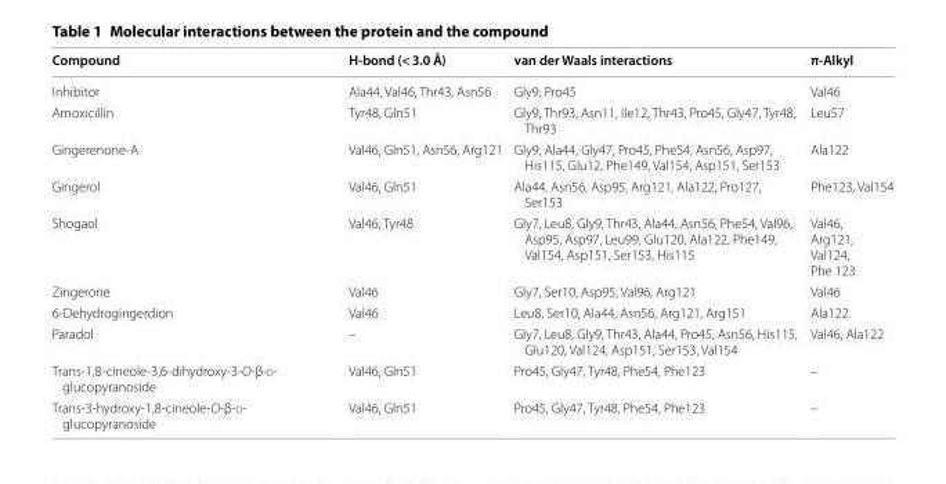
<table><thead><tr><td>Compound</td><td>H‑bond (&lt; 3.0 Å)</td><td>van der Waals interactions</td><td>π‑Alkyl</td></tr></thead><tbody><tr><td>Inhibitor</td><td>Ala44, Val46, Thr43, Asn56</td><td>Gly9, Pro45</td><td>Val46</td></tr><tr><td>Amoxicillin</td><td>Tyr48, Gln51</td><td>Gly9, Thr93, Asn11, Ile12, Thr43, Pro45, Gly47, Tyr48, Thr93</td><td>Leu57</td></tr><tr><td>Gingerenone-A</td><td>Val46, Gln51, Asn56, Arg121</td><td>Gly9, Ala44, Gly47, Pro45, Phe54, Asn56, Asp97, His115, Glu12, Phe149, Val154, Asp151, Ser153</td><td>Ala122</td></tr><tr><td>Gingerol</td><td>Val46, Gln51</td><td>Ala44, Asn56, Asp95, Arg121, Ala122, Pro127, Ser153</td><td>Phe123, Val154</td></tr><tr><td>Shogaol</td><td>Val46, Tyr48</td><td>Gly7, Leu8, Gly9, Thr43, Ala44, Asn56, Phe54, Val96, Asp95, Asp97, Leu99, Glu120, Ala122, Phe149, Val154, Asp151, Ser153, His115</td><td>Val46, Arg121, Val124, Phe 123</td></tr><tr><td>Zingerone</td><td>Val46</td><td>Gly7, Ser10, Asp95, Val96, Arg121</td><td>Val46</td></tr><tr><td>6-Dehydrogingerdion</td><td>Val46</td><td>Leu8, Ser10, Ala44, Asn56, Arg121, Arg151</td><td>Ala122</td></tr><tr><td>Paradol</td><td>–</td><td>Gly7, Leu8, Gly9, Thr43, Ala44, Pro45, Asn56, His115, Glu120, Val124, Asp151, Ser153, Val154</td><td>Val46, Ala122</td></tr><tr><td>Trans-1,8-cineole-3,6-dihydroxy-3-O-β-d- glucopyranoside</td><td>Val46, Gln51</td><td>Pro45, Gly47, Tyr48, Phe54, Phe123</td><td>–</td></tr><tr><td>Trans-3-hydroxy-1,8-cineole-O-β-d- glucopyranoside</td><td>Val46, Gln51</td><td>Pro45, Gly47, Tyr48, Phe54, Phe123</td><td>–</td></tr></tbody></table>